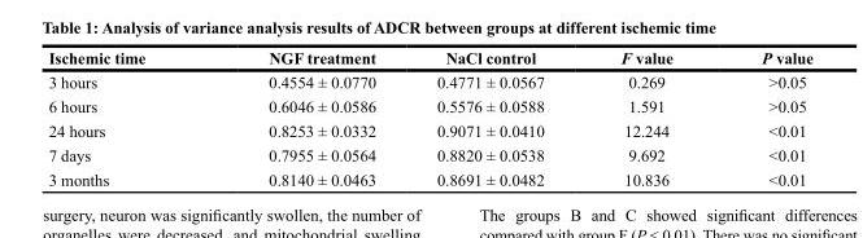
<table><thead><tr><td>Ischemic time</td><td>NGF treatment</td><td>NaCl control</td><td>F value</td><td>P value</td></tr></thead><tbody><tr><td>3 hours</td><td>0.4554 ± 0.0770</td><td>0.4771 ± 0.0567</td><td>0.269</td><td>&gt;0.05</td></tr><tr><td>6 hours</td><td>0.6046 ± 0.0586</td><td>0.5576 ± 0.0588</td><td>1.591</td><td>&gt;0.05</td></tr><tr><td>24 hours</td><td>0.8253 ± 0.0332</td><td>0.9071 ± 0.0410</td><td>12.244</td><td>&lt;0.01</td></tr><tr><td>7 days</td><td>0.7955 ± 0.0564</td><td>0.8820 ± 0.0538</td><td>9.692</td><td>&lt;0.01</td></tr><tr><td>3 months</td><td>0.8140 ± 0.0463</td><td>0.8691 ± 0.0482</td><td>10.836</td><td>&lt;0.01</td></tr></tbody></table>